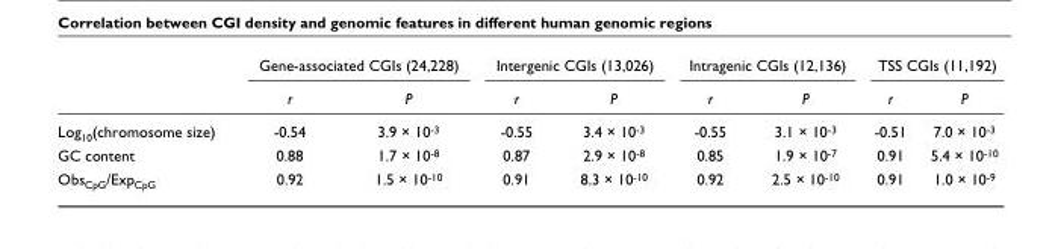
<table><thead><tr><td rowspan="2"></td><td colspan="2">Gene-associated CGIs (24,228)</td><td colspan="2">Intergenic CGIs (13,026)</td><td colspan="2">Intragenic CGIs (12,136)</td><td colspan="2">TSS CGIs (11,192)</td></tr><tr><td>r</td><td>P</td><td>r</td><td>P</td><td>r</td><td>P</td><td>r</td><td>P</td></tr></thead><tbody><tr><td>Log<sub>10</sub>(chromosome size)</td><td>-0.54</td><td>3.9 × 10<sup>-3</sup></td><td>-0.55</td><td>3.4 × 10<sup>-3</sup></td><td>-0.55</td><td>3.1 × 10<sup>-3</sup></td><td>-0.51</td><td>7.0 × 10<sup>-3</sup></td></tr><tr><td>GC content</td><td>0.88</td><td>1.7 × 10<sup>-8</sup></td><td>0.87</td><td>2.9 × 10<sup>-8</sup></td><td>0.85</td><td>1.9 × 10<sup>-7</sup></td><td>0.91</td><td>5.4 × 10<sup>-10</sup></td></tr><tr><td>Obs<sub>CpG</sub>/Exp<sub>CpG</sub></td><td>0.92</td><td>1.5 × 10<sup>-10</sup></td><td>0.91</td><td>8.3 × 10<sup>-10</sup></td><td>0.92</td><td>2.5 × 10<sup>-10</sup></td><td>0.91</td><td>1.0 × 10<sup>-9</sup></td></tr></tbody></table>